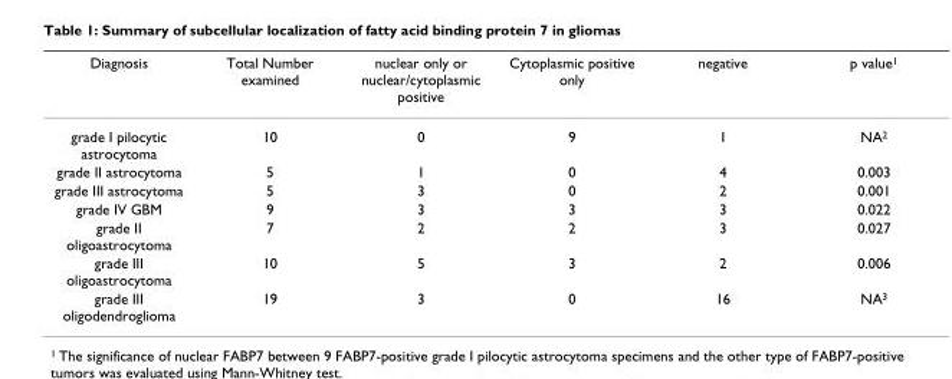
<table><thead><tr><td>Diagnosis</td><td>Total Number examined</td><td>nuclear only or nuclear/cytoplasmic positive</td><td>Cytoplasmic positive only</td><td>negative</td><td>p value<sup>1</sup></td></tr></thead><tbody><tr><td>grade I pilocytic astrocytoma</td><td>10</td><td>0</td><td>9</td><td>1</td><td>NA<sup>2</sup></td></tr><tr><td>grade II astrocytoma</td><td>5</td><td>1</td><td>0</td><td>4</td><td>0.003</td></tr><tr><td>grade III astrocytoma</td><td>5</td><td>3</td><td>0</td><td>2</td><td>0.001</td></tr><tr><td>grade IV GBM</td><td>9</td><td>3</td><td>3</td><td>3</td><td>0.022</td></tr><tr><td>grade II oligoastrocytoma</td><td>7</td><td>2</td><td>2</td><td>3</td><td>0.027</td></tr><tr><td>grade III oligoastrocytoma</td><td>10</td><td>5</td><td>3</td><td>2</td><td>0.006</td></tr><tr><td>grade III oligodendroglioma</td><td>19</td><td>3</td><td>0</td><td>16</td><td>NA<sup>3</sup></td></tr></tbody></table>